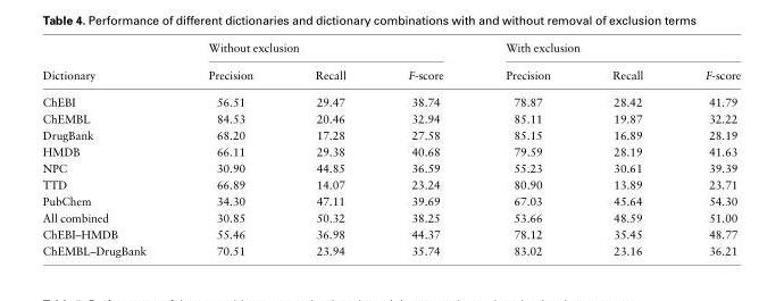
<table><thead><tr><td rowspan="2">Dictionary</td><td colspan="3">Without exclusion</td><td colspan="3">With exclusion</td></tr><tr><td>Precision</td><td>Recall</td><td>F-score</td><td>Precision</td><td>Recall</td><td>F-score</td></tr></thead><tbody><tr><td>ChEBI</td><td>56.51</td><td>29.47</td><td>38.74</td><td>78.87</td><td>28.42</td><td>41.79</td></tr><tr><td>ChEMBL</td><td>84.53</td><td>20.46</td><td>32.94</td><td>85.11</td><td>19.87</td><td>32.22</td></tr><tr><td>DrugBank</td><td>68.20</td><td>17.28</td><td>27.58</td><td>85.15</td><td>16.89</td><td>28.19</td></tr><tr><td>HMDB</td><td>66.11</td><td>29.38</td><td>40.68</td><td>79.59</td><td>28.19</td><td>41.63</td></tr><tr><td>NPC</td><td>30.90</td><td>44.85</td><td>36.59</td><td>55.23</td><td>30.61</td><td>39.39</td></tr><tr><td>TTD</td><td>66.89</td><td>14.07</td><td>23.24</td><td>80.90</td><td>13.89</td><td>23.71</td></tr><tr><td>PubChem</td><td>34.30</td><td>47.11</td><td>39.69</td><td>67.03</td><td>45.64</td><td>54.30</td></tr><tr><td>All combined</td><td>30.85</td><td>50.32</td><td>38.25</td><td>53.66</td><td>48.59</td><td>51.00</td></tr><tr><td>ChEBI–HMDB</td><td>55.46</td><td>36.98</td><td>44.37</td><td>78.12</td><td>35.45</td><td>48.77</td></tr><tr><td>ChEMBL–DrugBank</td><td>70.51</td><td>23.94</td><td>35.74</td><td>83.02</td><td>23.16</td><td>36.21</td></tr></tbody></table>